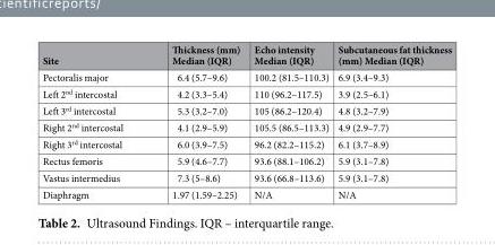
<table><thead><tr><td>Site</td><td>Thickness (mm) Median (IQR)</td><td>Echo intensity Median (IQR)</td><td>Subcutaneous fat thickness (mm) Median (IQR)</td></tr></thead><tbody><tr><td>Pectoralis major</td><td>6.4 (5.7–9.6)</td><td>100.2 (81.5–110.3)</td><td>6.9 (3.4–9.3)</td></tr><tr><td>Left 2<sup>nd</sup> intercostal</td><td>4.2 (3.3–5.4)</td><td>110 (96.2–117.5)</td><td>3.9 (2.5–6.1)</td></tr><tr><td>Left 3<sup>rd</sup> intercostal</td><td>5.3 (3.2–7.0)</td><td>105 (86.2–120.4)</td><td>4.8 (3.2–7.9)</td></tr><tr><td>Right 2<sup>nd</sup> intercostal</td><td>4.1 (2.9–5.9)</td><td>105.5 (86.5–113.3)</td><td>4.9 (2.9–7.7)</td></tr><tr><td>Right 3<sup>rd</sup> intercostal</td><td>6.0 (3.9–7.5)</td><td>96.2 (82.2–115.2)</td><td>6.1 (3.7–8.9)</td></tr><tr><td>Rectus femoris</td><td>5.9 (4.6–7.7)</td><td>93.6 (88.1–106.2)</td><td>5.9 (3.1–7.8)</td></tr><tr><td>Vastus intermedius</td><td>7.3 (5–8.6)</td><td>93.6 (66.8–113.6)</td><td>5.9 (3.1–7.8)</td></tr><tr><td>Diaphragm</td><td>1.97 (1.59–2.25)</td><td>N/A</td><td>N/A</td></tr></tbody></table>